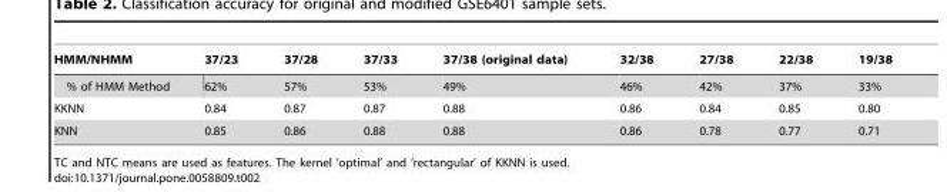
<table><thead><tr><td>HMM/NHMM</td><td>37/23</td><td>37/28</td><td>37/33</td><td>37/38 (original data)</td><td>32/38</td><td>27/38</td><td>22/38</td><td>19/38</td></tr></thead><tbody><tr><td>% of HMM Method</td><td>62%</td><td>57%</td><td>53%</td><td>49%</td><td>46%</td><td>42%</td><td>37%</td><td>33%</td></tr><tr><td>KKNN</td><td>0.84</td><td>0.87</td><td>0.87</td><td>0.88</td><td>0.86</td><td>0.84</td><td>0.85</td><td>0.80</td></tr><tr><td>KNN</td><td>0.85</td><td>0.86</td><td>0.88</td><td>0.88</td><td>0.86</td><td>0.78</td><td>0.77</td><td>0.71</td></tr></tbody></table>